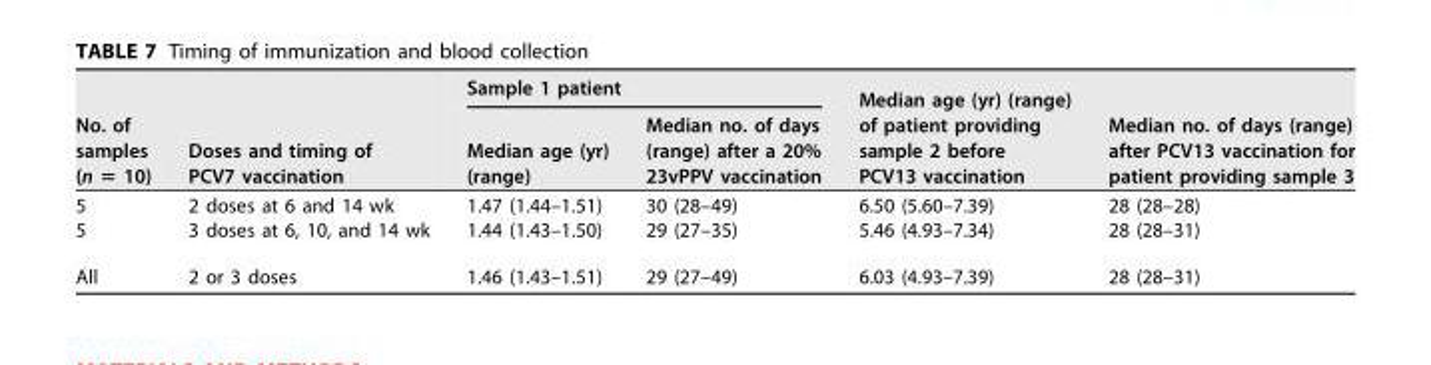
<table><thead><tr><td rowspan="2">No. of samples (n = 10)</td><td rowspan="2">Doses and timing of PCV7 vaccination</td><td colspan="2">Sample 1 patient</td><td rowspan="2">Median age (yr) (range) of patient providing sample 2 before PCV13 vaccination</td><td rowspan="2">Median no. of days (range) after PCV13 vaccination for patient providing sample 3</td></tr><tr><td>Median age (yr) (range)</td><td>Median no. of days (range) after a 20% 23vPPV vaccination</td></tr></thead><tbody><tr><td>5</td><td>2 doses at 6 and 14 wk</td><td>1.47 (1.44–1.51)</td><td>30 (28–49)</td><td>6.50 (5.60–7.39)</td><td>28 (28–28)</td></tr><tr><td>5</td><td>3 doses at 6, 10, and 14 wk</td><td>1.44 (1.43–1.50)</td><td>29 (27–35)</td><td>5.46 (4.93–7.34)</td><td>28 (28–31)</td></tr><tr><td>All</td><td>2 or 3 doses</td><td>1.46 (1.43–1.51)</td><td>29 (27–49)</td><td>6.03 (4.93–7.39)</td><td>28 (28–31)</td></tr></tbody></table>